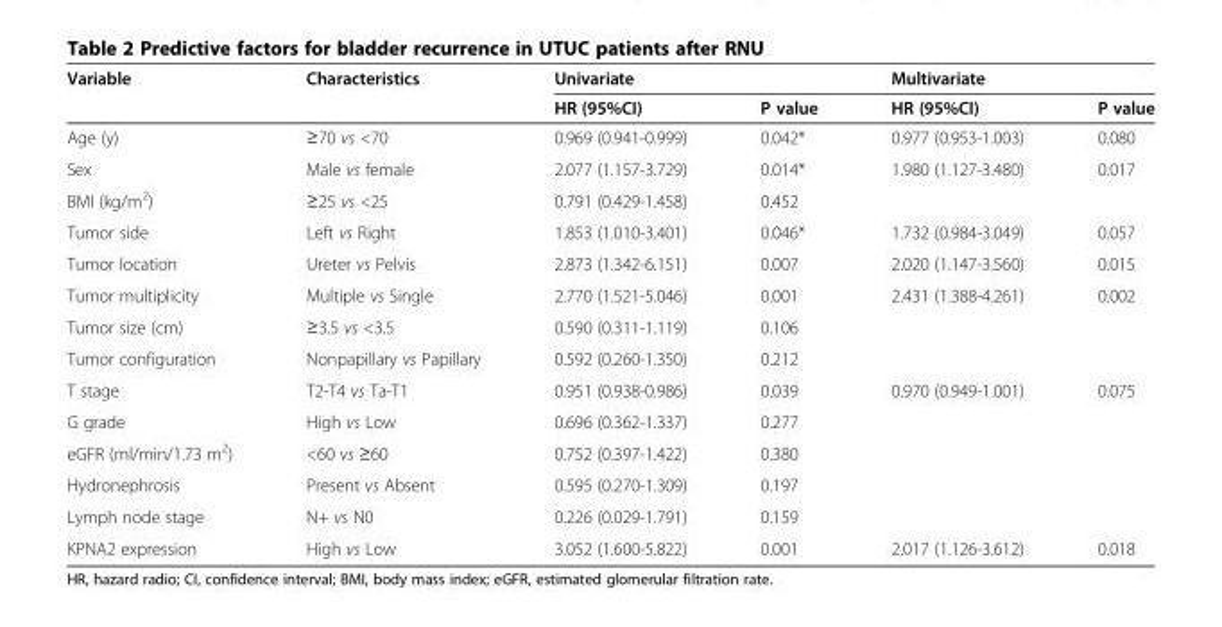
<table><thead><tr><td rowspan="2">Variable</td><td rowspan="2">Characteristics</td><td colspan="2">Univariate</td><td colspan="2">Multivariate</td></tr><tr><td>HR (95%CI)</td><td>P value</td><td>HR (95%CI)</td><td>P value</td></tr></thead><tbody><tr><td>Age (y)</td><td>≥70 vs &lt;70</td><td>0.969 (0.941-0.999)</td><td>0.042*</td><td>0.977 (0.953-1.003)</td><td>0.080</td></tr><tr><td>Sex</td><td>Male vs female</td><td>2.077 (1.157-3.729)</td><td>0.014*</td><td>1.980 (1.127-3.480)</td><td>0.017</td></tr><tr><td>BMI (kg/m<sup>2</sup>)</td><td>≥25 vs &lt;25</td><td>0.791 (0.429-1.458)</td><td>0.452</td><td></td><td></td></tr><tr><td>Tumor side</td><td>Left vs Right</td><td>1.853 (1.010-3.401)</td><td>0.046*</td><td>1.732 (0.984-3.049)</td><td>0.057</td></tr><tr><td>Tumor location</td><td>Ureter vs Pelvis</td><td>2.873 (1.342-6.151)</td><td>0.007</td><td>2.020 (1.147-3.560)</td><td>0.015</td></tr><tr><td>Tumor multiplicity</td><td>Multiple vs Single</td><td>2.770 (1.521-5.046)</td><td>0.001</td><td>2.431 (1.388-4.261)</td><td>0.002</td></tr><tr><td>Tumor size (cm)</td><td>≥3.5 vs &lt;3.5</td><td>0.590 (0.311-1.119)</td><td>0.106</td><td></td><td></td></tr><tr><td>Tumor configuration</td><td>Nonpapillary vs Papillary</td><td>0.592 (0.260-1.350)</td><td>0.212</td><td></td><td></td></tr><tr><td>T stage</td><td>T2-T4 vs Ta-T1</td><td>0.951 (0.938-0.986)</td><td>0.039</td><td>0.970 (0.949-1.001)</td><td>0.075</td></tr><tr><td>G grade</td><td>High vs Low</td><td>0.696 (0.362-1.337)</td><td>0.277</td><td></td><td></td></tr><tr><td>eGFR (ml/min/1.73 m<sup>2</sup>)</td><td>&lt;60 vs ≥60</td><td>0.752 (0.397-1.422)</td><td>0.380</td><td></td><td></td></tr><tr><td>Hydronephrosis</td><td>Present vs Absent</td><td>0.595 (0.270-1.309)</td><td>0.197</td><td></td><td></td></tr><tr><td>Lymph node stage</td><td>N+ vs N0</td><td>0.226 (0.029-1.791)</td><td>0.159</td><td></td><td></td></tr><tr><td>KPNA2 expression</td><td>High vs Low</td><td>3.052 (1.600-5.822)</td><td>0.001</td><td>2.017 (1.126-3.612)</td><td>0.018</td></tr></tbody></table>